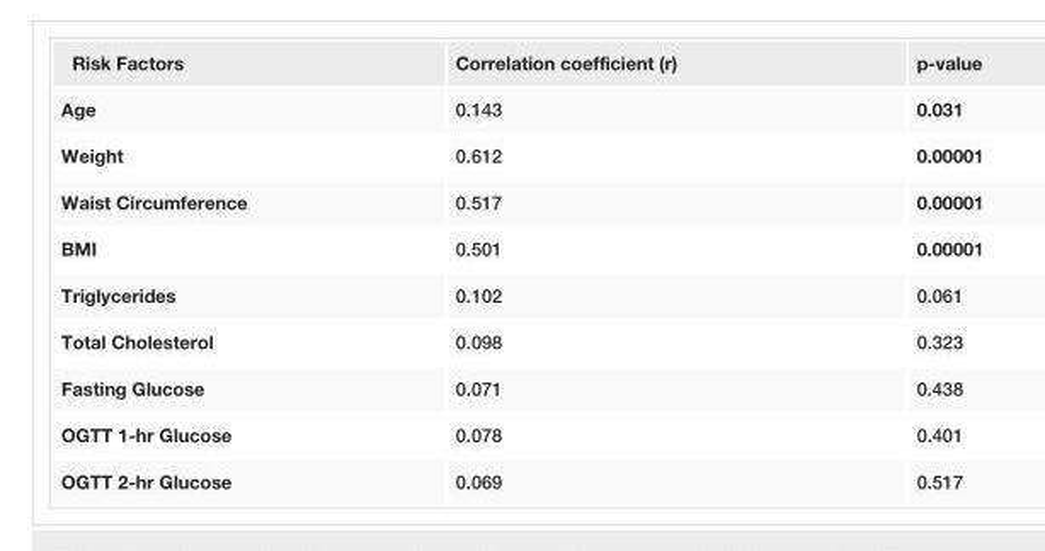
<table><tbody><tr><td>Risk Factors</td><td>Correlation coefficient (r)</td><td>p-value</td></tr><tr><td>Age</td><td>0.143</td><td>0.031</td></tr><tr><td>Weight</td><td>0.612</td><td>0.00001</td></tr><tr><td>Waist Circumference</td><td>0.517</td><td>0.00001</td></tr><tr><td>BMI</td><td>0.501</td><td>0.00001</td></tr><tr><td>Triglycerides</td><td>0.102</td><td>0.061</td></tr><tr><td>Total Cholesterol</td><td>0.098</td><td>0.323</td></tr><tr><td>Fasting Glucose</td><td>0.071</td><td>0.438</td></tr><tr><td>OGTT 1-hr Glucose</td><td>0.078</td><td>0.401</td></tr><tr><td>OGTT 2-hr Glucose</td><td>0.069</td><td>0.517</td></tr></tbody></table>